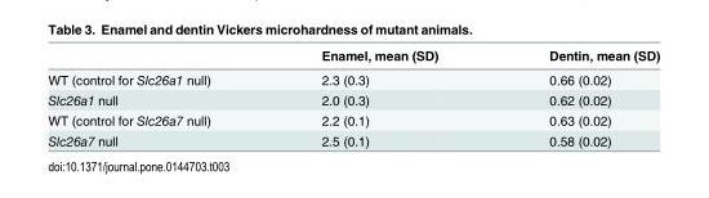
<table><thead><tr><td></td><td>Enamel, mean (SD)</td><td>Dentin, mean (SD)</td></tr></thead><tbody><tr><td>WT (control for Slc26a1 null)</td><td>2.3 (0.3)</td><td>0.66 (0.02)</td></tr><tr><td>Slc26a1 null</td><td>2.0 (0.3)</td><td>0.62 (0.02)</td></tr><tr><td>WT (control for Slc26a7 null)</td><td>2.2 (0.1)</td><td>0.63 (0.02)</td></tr><tr><td>Slc26a7 null</td><td>2.5 (0.1)</td><td>0.58 (0.02)</td></tr></tbody></table>